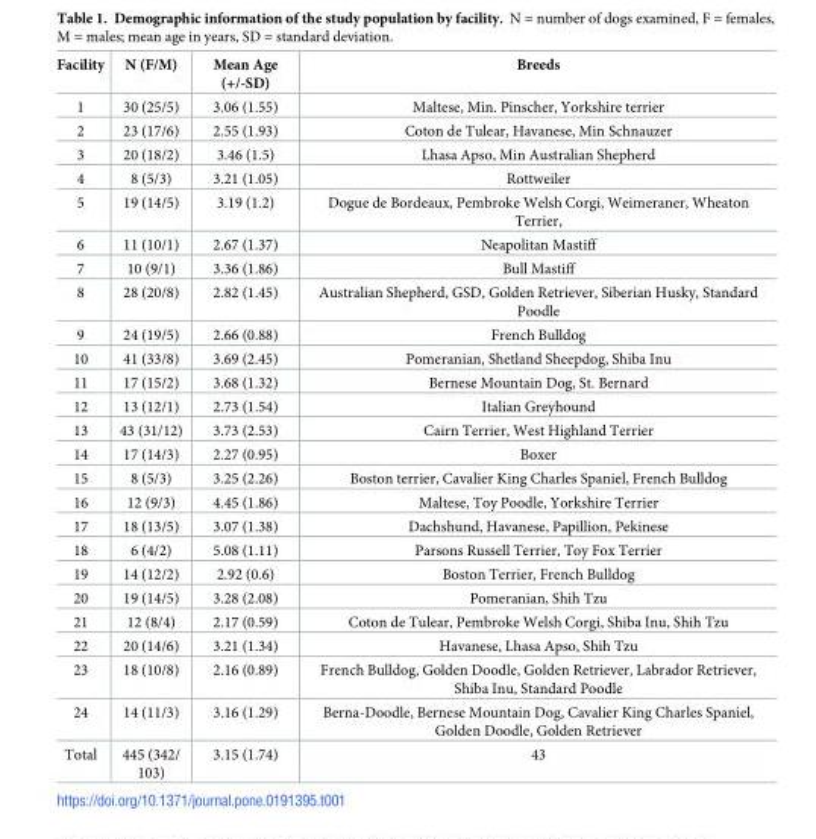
<table><thead><tr><td>Facility</td><td>N (F/M)</td><td>Mean Age (+/-SD)</td><td>Breeds</td></tr></thead><tbody><tr><td>1</td><td>30 (25/5)</td><td>3.06 (1.55)</td><td>Maltese, Min. Pinscher, Yorkshire terrier</td></tr><tr><td>2</td><td>23 (17/6)</td><td>2.55 (1.93)</td><td>Coton de Tulear, Havanese, Min Schnauzer</td></tr><tr><td>3</td><td>20 (18/2)</td><td>3.46 (1.5)</td><td>Lhasa Apso, Min Australian Shepherd</td></tr><tr><td>4</td><td>8 (5/3)</td><td>3.21 (1.05)</td><td>Rottweiler</td></tr><tr><td>5</td><td>19 (14/5)</td><td>3.19 (1.2)</td><td>Dogue de Bordeaux, Pembroke Welsh Corgi, Weimeraner, Wheaton Terrier,</td></tr><tr><td>6</td><td>11 (10/1)</td><td>2.67 (1.37)</td><td>Neapolitan Mastiff</td></tr><tr><td>7</td><td>10 (9/1)</td><td>3.36 (1.86)</td><td>Bull Mastiff</td></tr><tr><td>8</td><td>28 (20/8)</td><td>2.82 (1.45)</td><td>Australian Shepherd, GSD, Golden Retriever, Siberian Husky, Standard Poodle</td></tr><tr><td>9</td><td>24 (19/5)</td><td>2.66 (0.88)</td><td>French Bulldog</td></tr><tr><td>10</td><td>41 (33/8)</td><td>3.69 (2.45)</td><td>Pomeranian, Shetland Sheepdog, Shiba Inu</td></tr><tr><td>11</td><td>17 (15/2)</td><td>3.68 (1.32)</td><td>Bernese Mountain Dog, St. Bernard</td></tr><tr><td>12</td><td>13 (12/1)</td><td>2.73 (1.54)</td><td>Italian Greyhound</td></tr><tr><td>13</td><td>43 (31/12)</td><td>3.73 (2.53)</td><td>Cairn Terrier, West Highland Terrier</td></tr><tr><td>14</td><td>17 (14/3)</td><td>2.27 (0.95)</td><td>Boxer</td></tr><tr><td>15</td><td>8 (5/3)</td><td>3.25 (2.26)</td><td>Boston terrier, Cavalier King Charles Spaniel, French Bulldog</td></tr><tr><td>16</td><td>12 (9/3)</td><td>4.45 (1.86)</td><td>Maltese, Toy Poodle, Yorkshire Terrier</td></tr><tr><td>17</td><td>18 (13/5)</td><td>3.07 (1.38)</td><td>Dachshund, Havanese, Papillion, Pekinese</td></tr><tr><td>18</td><td>6 (4/2)</td><td>5.08 (1.11)</td><td>Parsons Russell Terrier, Toy Fox Terrier</td></tr><tr><td>19</td><td>14 (12/2)</td><td>2.92 (0.6)</td><td>Boston Terrier, French Bulldog</td></tr><tr><td>20</td><td>19 (14/5)</td><td>3.28 (2.08)</td><td>Pomeranian, Shih Tzu</td></tr><tr><td>21</td><td>12 (8/4)</td><td>2.17 (0.59)</td><td>Coton de Tulear, Pembroke Welsh Corgi, Shiba Inu, Shih Tzu</td></tr><tr><td>22</td><td>20 (14/6)</td><td>3.21 (1.34)</td><td>Havanese, Lhasa Apso, Shih Tzu</td></tr><tr><td>23</td><td>18 (10/8)</td><td>2.16 (0.89)</td><td>French Bulldog, Golden Doodle, Golden Retriever, Labrador Retriever, Shiba Inu, Standard Poodle</td></tr><tr><td>24</td><td>14 (11/3)</td><td>3.16 (1.29)</td><td>Berna-Doodle, Bernese Mountain Dog, Cavalier King Charles Spaniel, Golden Doodle, Golden Retriever</td></tr><tr><td>Total</td><td>445 (342/ 103)</td><td>3.15 (1.74)</td><td>43</td></tr></tbody></table>